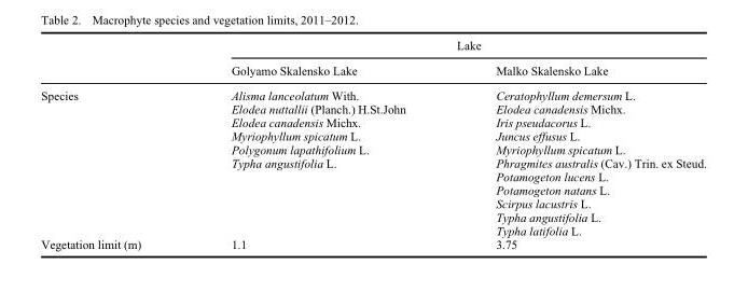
<table><thead><tr><td rowspan="2"></td><td colspan="2">Lake</td></tr><tr><td>Golyamo Skalensko Lake</td><td>Malko Skalensko Lake</td></tr></thead><tbody><tr><td rowspan="11">Species</td><td>Alisma lanceolatum With.</td><td>Ceratophyllum demersum L.</td></tr><tr><td>Elodea nuttallii (Planch.) H.St.John</td><td>Elodea canadensis Michx.</td></tr><tr><td>Elodea canadensis Michx.</td><td>Iris pseudacorus L.</td></tr><tr><td>Myriophyllum spicatum L.</td><td>Juncus effusus L.</td></tr><tr><td>Polygonum lapathifolium L.</td><td>Myriophyllum spicatum L.</td></tr><tr><td>Typha angustifolia L.</td><td>Phragmites australis (Cav.) Trin. ex Steud.</td></tr><tr><td></td><td>Potamogeton lucens L.</td></tr><tr><td></td><td>Potamogeton natans L.</td></tr><tr><td></td><td>Scirpus lacustris L.</td></tr><tr><td></td><td>Typha angustifolia L.</td></tr><tr><td></td><td>Typha latifolia L.</td></tr><tr><td>Vegetation limit (m)</td><td>1.1</td><td>3.75</td></tr></tbody></table>